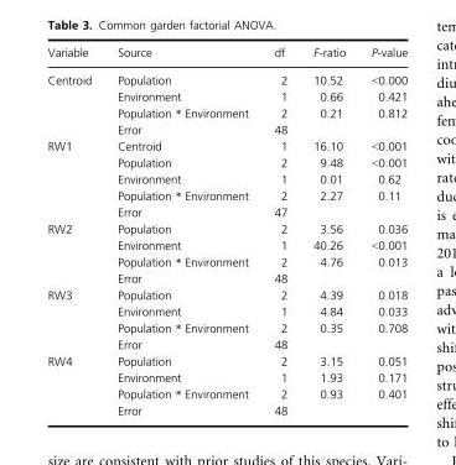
<table><thead><tr><td>Variable</td><td>Source</td><td>df</td><td>F-ratio</td><td>P-value</td></tr></thead><tbody><tr><td rowspan="4">Centroid</td><td>Population</td><td>2</td><td>10.52</td><td>&lt;0.000</td></tr><tr><td>Environment</td><td>1</td><td>0.66</td><td>0.421</td></tr><tr><td>Population * Environment</td><td>2</td><td>0.21</td><td>0.812</td></tr><tr><td>Error</td><td>48</td><td></td><td></td></tr><tr><td rowspan="5">RW1</td><td>Centroid</td><td>1</td><td>16.10</td><td>&lt;0.001</td></tr><tr><td>Population</td><td>2</td><td>9.48</td><td>&lt;0.001</td></tr><tr><td>Environment</td><td>1</td><td>0.01</td><td>0.62</td></tr><tr><td>Population * Environment</td><td>2</td><td>2.27</td><td>0.11</td></tr><tr><td>Error</td><td>47</td><td></td><td></td></tr><tr><td rowspan="4">RW2</td><td>Population</td><td>2</td><td>3.56</td><td>0.036</td></tr><tr><td>Environment</td><td>1</td><td>40.26</td><td>&lt;0.001</td></tr><tr><td>Population * Environment</td><td>2</td><td>4.76</td><td>0.013</td></tr><tr><td>Error</td><td>48</td><td></td><td></td></tr><tr><td rowspan="4">RW3</td><td>Population</td><td>2</td><td>4.39</td><td>0.018</td></tr><tr><td>Environment</td><td>1</td><td>4.84</td><td>0.033</td></tr><tr><td>Population * Environment</td><td>2</td><td>0.35</td><td>0.708</td></tr><tr><td>Error</td><td>48</td><td></td><td></td></tr><tr><td rowspan="4">RW4</td><td>Population</td><td>2</td><td>3.15</td><td>0.051</td></tr><tr><td>Environment</td><td>1</td><td>1.93</td><td>0.171</td></tr><tr><td>Population * Environment</td><td>2</td><td>0.93</td><td>0.401</td></tr><tr><td>Error</td><td>48</td><td></td><td></td></tr></tbody></table>